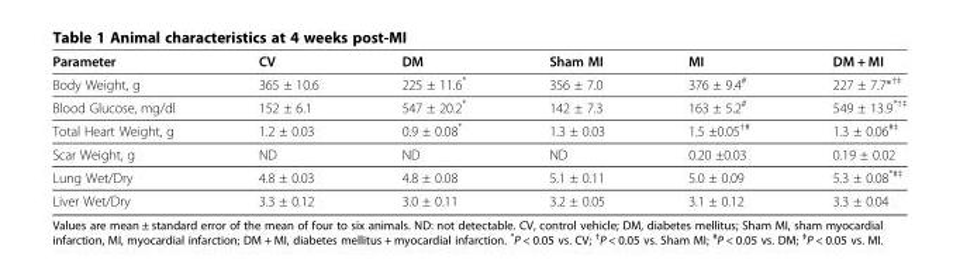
<table><thead><tr><td>Parameter</td><td>CV</td><td>DM</td><td>Sham MI</td><td>MI</td><td>DM + MI</td></tr></thead><tbody><tr><td>Body Weight, g</td><td>365 ± 10.6</td><td>225 ± 11.6*</td><td>356 ± 7.0</td><td>376 ± 9.4<sup>#</sup></td><td>227 ± 7.7*<sup>†‡</sup></td></tr><tr><td>Blood Glucose, mg/dl</td><td>152 ± 6.1</td><td>547 ± 20.2*</td><td>142 ± 7.3</td><td>163 ± 5.2<sup>#</sup></td><td>549 ± 13.9<sup>*†‡</sup></td></tr><tr><td>Total Heart Weight, g</td><td>1.2 ± 0.03</td><td>0.9 ± 0.08*</td><td>1.3 ± 0.03</td><td>1.5 ±0.05<sup>†#</sup></td><td>1.3 ± 0.06<sup>#‡</sup></td></tr><tr><td>Scar Weight, g</td><td>ND</td><td>ND</td><td>ND</td><td>0.20 ±0.03</td><td>0.19 ± 0.02</td></tr><tr><td>Lung Wet/Dry</td><td>4.8 ± 0.03</td><td>4.8 ± 0.08</td><td>5.1 ± 0.11</td><td>5.0 ± 0.09</td><td>5.3 ± 0.08<sup>*#‡</sup></td></tr><tr><td>Liver Wet/Dry</td><td>3.3 ± 0.12</td><td>3.0 ± 0.11</td><td>3.2 ± 0.05</td><td>3.1 ± 0.12</td><td>3.3 ± 0.04</td></tr></tbody></table>